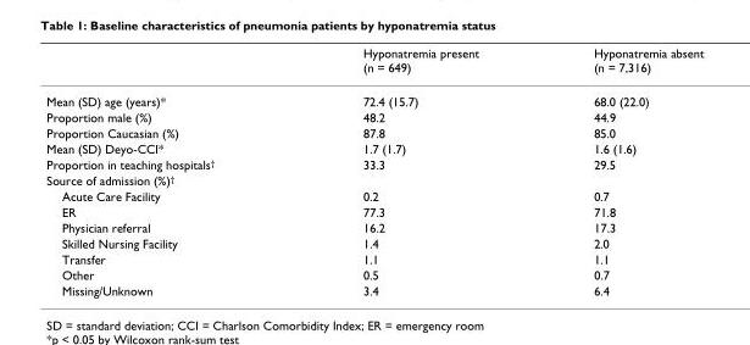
<table><thead><tr><td></td><td>Hyponatremia present (n = 649)</td><td>Hyponatremia absent (n = 7,316)</td></tr></thead><tbody><tr><td>Mean (SD) age (years)*</td><td>72.4 (15.7)</td><td>68.0 (22.0)</td></tr><tr><td>Proportion male (%)</td><td>48.2</td><td>44.9</td></tr><tr><td>Proportion Caucasian (%)</td><td>87.8</td><td>85.0</td></tr><tr><td>Mean (SD) Deyo-CCI*</td><td>1.7 (1.7)</td><td>1.6 (1.6)</td></tr><tr><td>Proportion in teaching hospitals<sup>†</sup></td><td>33.3</td><td>29.5</td></tr><tr><td colspan="3">Source of admission (%)<sup>†</sup></td></tr><tr><td>Acute Care Facility</td><td>0.2</td><td>0.7</td></tr><tr><td>ER</td><td>77.3</td><td>71.8</td></tr><tr><td>Physician referral</td><td>16.2</td><td>17.3</td></tr><tr><td>Skilled Nursing Facility</td><td>1.4</td><td>2.0</td></tr><tr><td>Transfer</td><td>1.1</td><td>1.1</td></tr><tr><td>Other</td><td>0.5</td><td>0.7</td></tr><tr><td>Missing/Unknown</td><td>3.4</td><td>6.4</td></tr></tbody></table>